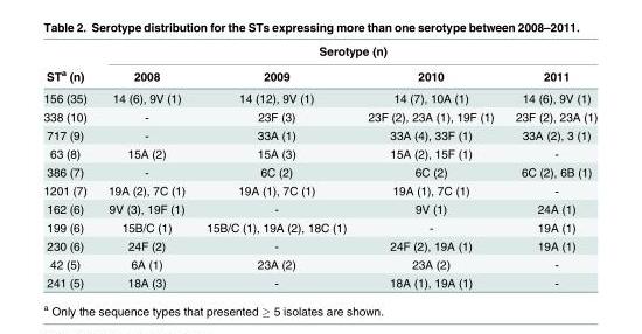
<table><thead><tr><td rowspan="2">ST<sup>a</sup> (n)</td><td colspan="4">Serotype (n)</td></tr><tr><td>2008</td><td>2009</td><td>2010</td><td>2011</td></tr></thead><tbody><tr><td>156 (35)</td><td>14 (6), 9V (1)</td><td>14 (12), 9V (1)</td><td>14 (7), 10A (1)</td><td>14 (6), 9V (1)</td></tr><tr><td>338 (10)</td><td>-</td><td>23F (3)</td><td>23F (2), 23A (1), 19F (1)</td><td>23F (2), 23A (1)</td></tr><tr><td>717 (9)</td><td>-</td><td>33A (1)</td><td>33A (4), 33F (1)</td><td>33A (2), 3 (1)</td></tr><tr><td>63 (8)</td><td>15A (2)</td><td>15A (3)</td><td>15A (2), 15F (1)</td><td>-</td></tr><tr><td>386 (7)</td><td>-</td><td>6C (2)</td><td>6C (2)</td><td>6C (2), 6B (1)</td></tr><tr><td>1201 (7)</td><td>19A (2), 7C (1)</td><td>19A (1), 7C (1)</td><td>19A (1), 7C (1)</td><td>-</td></tr><tr><td>162 (6)</td><td>9V (3), 19F (1)</td><td>-</td><td>9V (1)</td><td>24A (1)</td></tr><tr><td>199 (6)</td><td>15B/C (1)</td><td>15B/C (1), 19A (2), 18C (1)</td><td>-</td><td>19A (1)</td></tr><tr><td>230 (6)</td><td>24F (2)</td><td>-</td><td>24F (2), 19A (1)</td><td>19A (1)</td></tr><tr><td>42 (5)</td><td>6A (1)</td><td>23A (2)</td><td>23A (2)</td><td>-</td></tr><tr><td>241 (5)</td><td>18A (3)</td><td>-</td><td>18A (1), 19A (1)</td><td>-</td></tr></tbody></table>